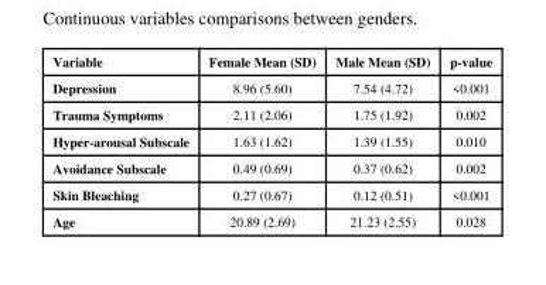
<table><thead><tr><td>Variable</td><td>Female Mean (SD)</td><td>Male Mean (SD)</td><td>p-value</td></tr></thead><tbody><tr><td>Depression</td><td>8.96 (5.60)</td><td>7.54 (4.72)</td><td>&lt;0.001</td></tr><tr><td>Trauma Symptoms</td><td>2.11 (2.06)</td><td>1.75 (1.92)</td><td>0.002</td></tr><tr><td>Hyper-arousal Subscale</td><td>1.63 (1.62)</td><td>1.39 (1.55)</td><td>0.010</td></tr><tr><td>Avoidance Subscale</td><td>0.49 (0.69)</td><td>0.37 (0.62)</td><td>0.002</td></tr><tr><td>Skin Bleaching</td><td>0.27 (0.67)</td><td>0.12 (0.51)</td><td>&lt;0.001</td></tr><tr><td>Age</td><td>20.89 (2.69)</td><td>21.23 (2.55)</td><td>0.028</td></tr></tbody></table>